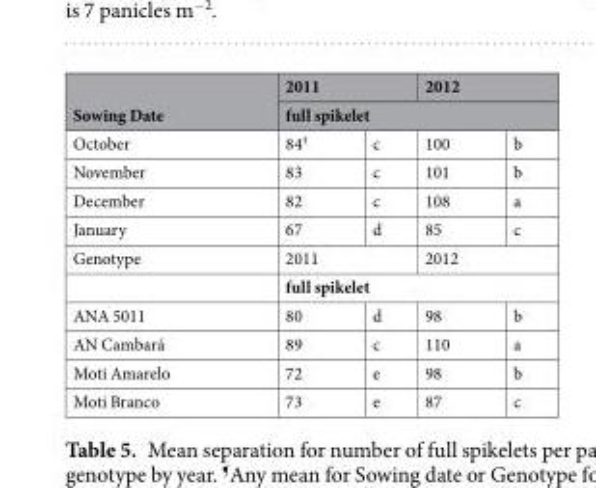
<table><thead><tr><td rowspan="3">Sowing Date October</td><td colspan="2">2011</td><td colspan="2">2012</td></tr><tr><td colspan="4">full spikelet</td></tr><tr><td>84<sup>†</sup></td><td>c</td><td>100</td><td>b</td></tr></thead><tbody><tr><td>November</td><td>83</td><td>c</td><td>101</td><td>b</td></tr><tr><td>December</td><td>82</td><td>c</td><td>108</td><td>a</td></tr><tr><td>January</td><td>67</td><td>d</td><td>85</td><td>c</td></tr><tr><td rowspan="2">Genotype</td><td colspan="2">2011</td><td colspan="2">2012</td></tr><tr><td colspan="4">full spikelet</td></tr><tr><td>ANA 5011</td><td>80</td><td>d</td><td>98</td><td>b</td></tr><tr><td>AN Cambará</td><td>89</td><td>c</td><td>110</td><td>a</td></tr><tr><td>Moti Amarelo</td><td>72</td><td>e</td><td>98</td><td>b</td></tr><tr><td>Moti Branco</td><td>73</td><td>e</td><td>87</td><td>c</td></tr></tbody></table>